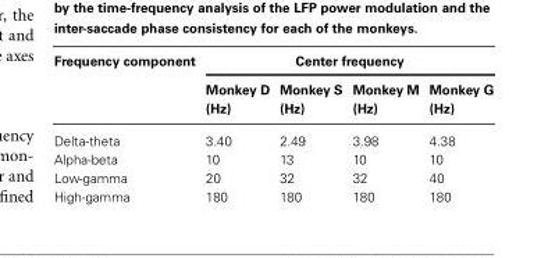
<table><thead><tr><td rowspan="2">Frequency component</td><td colspan="4">Center frequency</td></tr><tr><td>Monkey D (Hz)</td><td>Monkey S (Hz)</td><td>Monkey M (Hz)</td><td>Monkey G (Hz)</td></tr></thead><tbody><tr><td>Delta-theta</td><td>3.40</td><td>2.49</td><td>3.98</td><td>4.38</td></tr><tr><td>Alpha-beta</td><td>10</td><td>13</td><td>10</td><td>10</td></tr><tr><td>Low-gamma</td><td>20</td><td>32</td><td>32</td><td>40</td></tr><tr><td>High-gamma</td><td>180</td><td>180</td><td>180</td><td>180</td></tr></tbody></table>